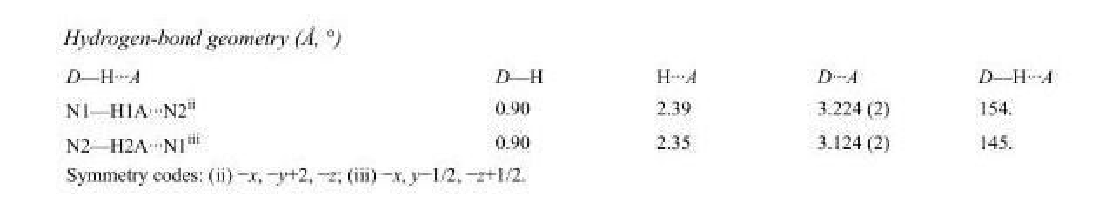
<table><tbody><tr><td>D—H···A</td><td>D—H</td><td>H···A</td><td>D···A</td><td>D—H···A</td></tr><tr><td>N1—H1A···N2<sup>ii</sup></td><td>0.90</td><td>2.39</td><td>3.224 (2)</td><td>154.</td></tr><tr><td>N2—H2A···N1<sup>iii</sup></td><td>0.90</td><td>2.35</td><td>3.124 (2)</td><td>145.</td></tr></tbody></table>